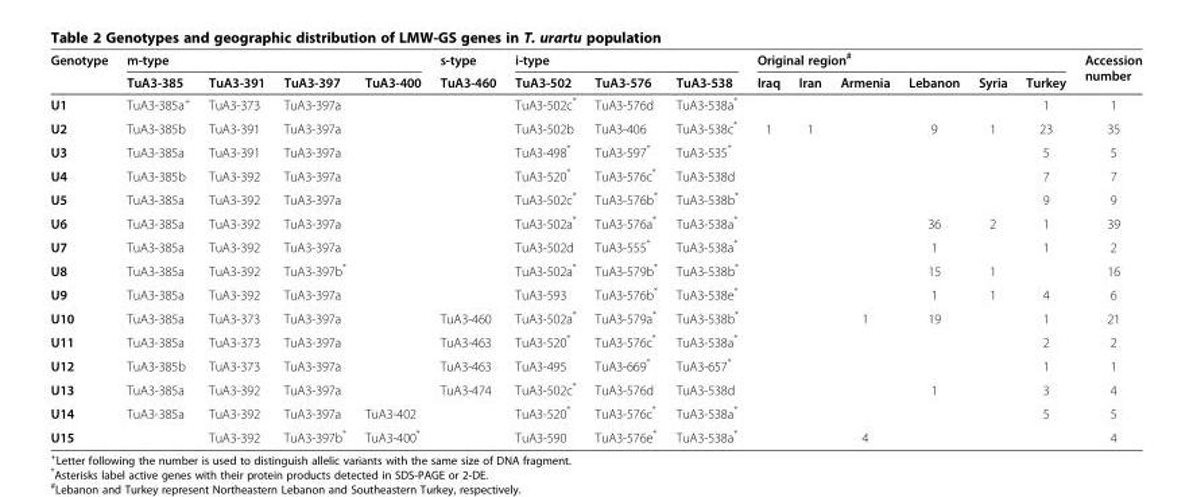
<table><thead><tr><td rowspan="2">Genotype</td><td colspan="4">m-type</td><td rowspan="2">s-type TuA3-460</td><td colspan="3">i-type</td><td colspan="6">Original region<sup>#</sup></td><td rowspan="2">Accession number</td></tr><tr><td>TuA3-385</td><td>TuA3-391</td><td>TuA3-397</td><td>TuA3-400</td><td>TuA3-502</td><td>TuA3-576</td><td>TuA3-538</td><td>Iraq</td><td>Iran</td><td>Armenia</td><td>Lebanon</td><td>Syria</td><td>Turkey</td></tr></thead><tbody><tr><td>U1</td><td>TuA3-385a<sup>+</sup></td><td>TuA3-373</td><td>TuA3-397a</td><td></td><td></td><td>TuA3-502c*</td><td>TuA3-576d</td><td>TuA3-538a*</td><td></td><td></td><td></td><td></td><td></td><td>1</td><td>1</td></tr><tr><td>U2</td><td>TuA3-385b</td><td>TuA3-391</td><td>TuA3-397a</td><td></td><td></td><td>TuA3-502b</td><td>TuA3-406</td><td>TuA3-538c*</td><td>1</td><td>1</td><td></td><td>9</td><td>1</td><td>23</td><td>35</td></tr><tr><td>U3</td><td>TuA3-385a</td><td>TuA3-391</td><td>TuA3-397a</td><td></td><td></td><td>TuA3-498*</td><td>TuA3-597*</td><td>TuA3-535*</td><td></td><td></td><td></td><td></td><td></td><td>5</td><td>5</td></tr><tr><td>U4</td><td>TuA3-385b</td><td>TuA3-392</td><td>TuA3-397a</td><td></td><td></td><td>TuA3-520*</td><td>TuA3-576c*</td><td>TuA3-538d</td><td></td><td></td><td></td><td></td><td></td><td>7</td><td>7</td></tr><tr><td>U5</td><td>TuA3-385a</td><td>TuA3-392</td><td>TuA3-397a</td><td></td><td></td><td>TuA3-502c*</td><td>TuA3-576b*</td><td>TuA3-538b*</td><td></td><td></td><td></td><td></td><td></td><td>9</td><td>9</td></tr><tr><td>U6</td><td>TuA3-385a</td><td>TuA3-392</td><td>TuA3-397a</td><td></td><td></td><td>TuA3-502a*</td><td>TuA3-576a*</td><td>TuA3-538a*</td><td></td><td></td><td></td><td>36</td><td>2</td><td>1</td><td>39</td></tr><tr><td>U7</td><td>TuA3-385a</td><td>TuA3-392</td><td>TuA3-397a</td><td></td><td></td><td>TuA3-502d</td><td>TuA3-555*</td><td>TuA3-538a*</td><td></td><td></td><td></td><td>1</td><td></td><td>1</td><td>2</td></tr><tr><td>U8</td><td>TuA3-385a</td><td>TuA3-392</td><td>TuA3-397b*</td><td></td><td></td><td>TuA3-502a*</td><td>TuA3-579b*</td><td>TuA3-538b*</td><td></td><td></td><td></td><td>15</td><td>1</td><td></td><td>16</td></tr><tr><td>U9</td><td>TuA3-385a</td><td>TuA3-392</td><td>TuA3-397a</td><td></td><td></td><td>TuA3-593</td><td>TuA3-576b*</td><td>TuA3-538e*</td><td></td><td></td><td></td><td>1</td><td>1</td><td>4</td><td>6</td></tr><tr><td>U10</td><td>TuA3-385a</td><td>TuA3-373</td><td>TuA3-397a</td><td></td><td>TuA3-460</td><td>TuA3-502a*</td><td>TuA3-579a*</td><td>TuA3-538b*</td><td></td><td></td><td>1</td><td>19</td><td></td><td>1</td><td>21</td></tr><tr><td>U11</td><td>TuA3-385a</td><td>TuA3-373</td><td>TuA3-397a</td><td></td><td>TuA3-463</td><td>TuA3-520*</td><td>TuA3-576c*</td><td>TuA3-538a*</td><td></td><td></td><td></td><td></td><td></td><td>2</td><td>2</td></tr><tr><td>U12</td><td>TuA3-385b</td><td>TuA3-373</td><td>TuA3-397a</td><td></td><td>TuA3-463</td><td>TuA3-495</td><td>TuA3-669*</td><td>TuA3-657*</td><td></td><td></td><td></td><td></td><td></td><td>1</td><td>1</td></tr><tr><td>U13</td><td>TuA3-385a</td><td>TuA3-392</td><td>TuA3-397a</td><td></td><td>TuA3-474</td><td>TuA3-502c*</td><td>TuA3-576d</td><td>TuA3-538d</td><td></td><td></td><td></td><td>1</td><td></td><td>3</td><td>4</td></tr><tr><td>U14</td><td>TuA3-385a</td><td>TuA3-392</td><td>TuA3-397a</td><td>TuA3-402</td><td></td><td>TuA3-520*</td><td>TuA3-576c*</td><td>TuA3-538a*</td><td></td><td></td><td></td><td></td><td></td><td>5</td><td>5</td></tr><tr><td>U15</td><td></td><td>TuA3-392</td><td>TuA3-397b*</td><td>TuA3-400*</td><td></td><td>TuA3-590</td><td>TuA3-576e*</td><td>TuA3-538a*</td><td></td><td></td><td>4</td><td></td><td></td><td></td><td>4</td></tr></tbody></table>